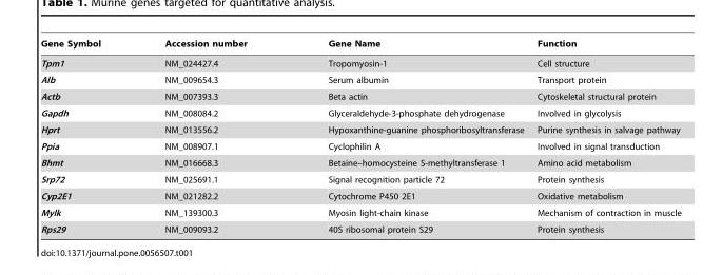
<table><thead><tr><td>Gene Symbol</td><td>Accession number</td><td>Gene Name</td><td>Function</td></tr></thead><tbody><tr><td>Tpm1</td><td>NM_024427.4</td><td>Tropomyosin-1</td><td>Cell structure</td></tr><tr><td>Alb</td><td>NM_009654.3</td><td>Serum albumin</td><td>Transport protein</td></tr><tr><td>Actb</td><td>NM_007393.3</td><td>Beta actin</td><td>Cytoskeletal structural protein</td></tr><tr><td>Gapdh</td><td>NM_008084.2</td><td>Glyceraldehyde-3-phosphate dehydrogenase</td><td>Involved in glycolysis</td></tr><tr><td>Hprt</td><td>NM_013556.2</td><td>Hypoxanthine-guanine phosphoribosyltransferase</td><td>Purine synthesis in salvage pathway</td></tr><tr><td>Ppia</td><td>NM_008907.1</td><td>Cyclophilin A</td><td>Involved in signal transduction</td></tr><tr><td>Bhmt</td><td>NM_016668.3</td><td>Betaine–homocysteine S-methyltransferase 1</td><td>Amino acid metabolism</td></tr><tr><td>Srp72</td><td>NM_025691.1</td><td>Signal recognition particle 72</td><td>Protein synthesis</td></tr><tr><td>Cyp2E1</td><td>NM_021282.2</td><td>Cytochrome P450 2E1</td><td>Oxidative metabolism</td></tr><tr><td>Mylk</td><td>NM_139300.3</td><td>Myosin light-chain kinase</td><td>Mechanism of contraction in muscle</td></tr><tr><td>Rps29</td><td>NM_009093.2</td><td>40S ribosomal protein S29</td><td>Protein synthesis</td></tr></tbody></table>